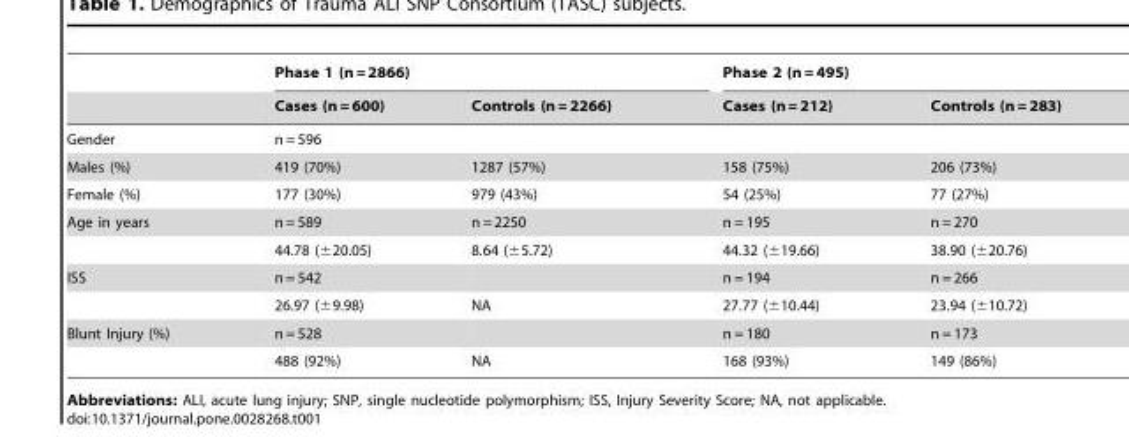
<table><thead><tr><td rowspan="2"></td><td colspan="2">Phase 1 (n = 2866)</td><td colspan="2">Phase 2 (n = 495)</td></tr><tr><td>Cases (n = 600)</td><td>Controls (n = 2266)</td><td>Cases (n = 212)</td><td>Controls (n = 283)</td></tr></thead><tbody><tr><td>Gender</td><td>n = 596</td><td></td><td></td><td></td></tr><tr><td>Males (%)</td><td>419 (70%)</td><td>1287 (57%)</td><td>158 (75%)</td><td>206 (73%)</td></tr><tr><td>Female (%)</td><td>177 (30%)</td><td>979 (43%)</td><td>54 (25%)</td><td>77 (27%)</td></tr><tr><td rowspan="2">Age in years</td><td>n = 589</td><td>n = 2250</td><td>n = 195</td><td>n = 270</td></tr><tr><td>44.78 (±20.05)</td><td>8.64 (±5.72)</td><td>44.32 (±19.66)</td><td>38.90 (±20.76)</td></tr><tr><td rowspan="2">ISS</td><td>n = 542</td><td></td><td>n = 194</td><td>n = 266</td></tr><tr><td>26.97 (±9.98)</td><td>NA</td><td>27.77 (±10.44)</td><td>23.94 (±10.72)</td></tr><tr><td rowspan="2">Blunt Injury (%)</td><td>n = 528</td><td></td><td>n = 180</td><td>n = 173</td></tr><tr><td>488 (92%)</td><td>NA</td><td>168 (93%)</td><td>149 (86%)</td></tr></tbody></table>